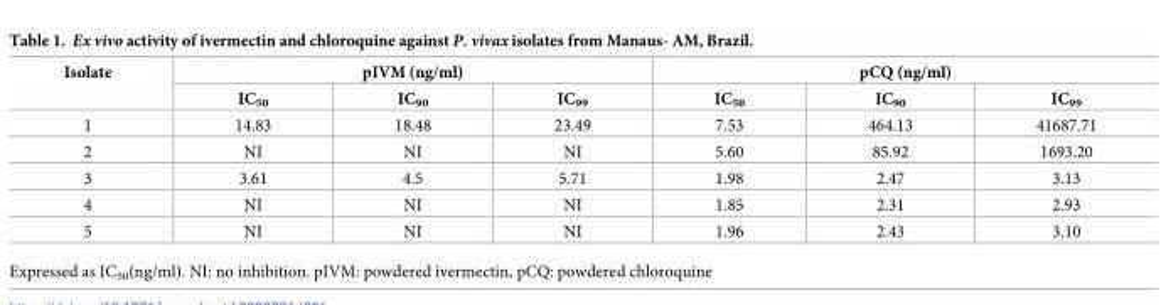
<table><thead><tr><td rowspan="2">Isolate</td><td colspan="3">pIVM (ng/ml)</td><td colspan="3">pCQ (ng/ml)</td></tr><tr><td>IC<sub>50</sub></td><td>IC<sub>90</sub></td><td>IC<sub>99</sub></td><td>IC<sub>50</sub></td><td>IC<sub>90</sub></td><td>IC<sub>99</sub></td></tr></thead><tbody><tr><td>1</td><td>14.83</td><td>18.48</td><td>23.49</td><td>7.53</td><td>464.13</td><td>41687.71</td></tr><tr><td>2</td><td>NI</td><td>NI</td><td>NI</td><td>5.60</td><td>85.92</td><td>1693.20</td></tr><tr><td>3</td><td>3.61</td><td>4.5</td><td>5.71</td><td>1.98</td><td>2.47</td><td>3.13</td></tr><tr><td>4</td><td>NI</td><td>NI</td><td>NI</td><td>1.85</td><td>2.31</td><td>2.93</td></tr><tr><td>5</td><td>NI</td><td>NI</td><td>NI</td><td>1.96</td><td>2.43</td><td>3.10</td></tr></tbody></table>